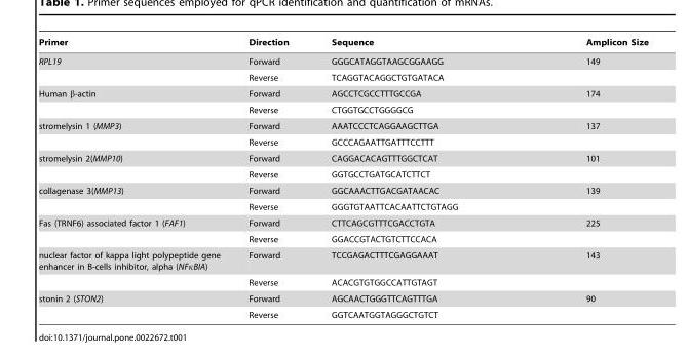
<table><thead><tr><td>Primer</td><td>Direction</td><td>Sequence</td><td>Amplicon Size</td></tr></thead><tbody><tr><td rowspan="2">RPL19</td><td>Forward</td><td>GGGCATAGGTAAGCGGAAGG</td><td>149</td></tr><tr><td>Reverse</td><td>TCAGGTACAGGCTGTGATACA</td><td></td></tr><tr><td rowspan="2">Human β-actin</td><td>Forward</td><td>AGCCTCGCCTTTGCCGA</td><td>174</td></tr><tr><td>Reverse</td><td>CTGGTGCCTGGGGCG</td><td></td></tr><tr><td rowspan="2">stromelysin 1 (MMP3)</td><td>Forward</td><td>AAATCCCTCAGGAAGCTTGA</td><td>137</td></tr><tr><td>Reverse</td><td>GCCCAGAATTGATTTCCTTT</td><td></td></tr><tr><td rowspan="2">stromelysin 2(MMP10)</td><td>Forward</td><td>CAGGACACAGTTTGGCTCAT</td><td>101</td></tr><tr><td>Reverse</td><td>GGTGCCTGATGCATCTTCT</td><td></td></tr><tr><td rowspan="2">collagenase 3(MMP13)</td><td>Forward</td><td>GGCAAACTTGACGATAACAC</td><td>139</td></tr><tr><td>Reverse</td><td>GGGTGTAATTCACAATTCTGTAGG</td><td></td></tr><tr><td rowspan="2">Fas (TRNF6) associated factor 1 (FAF1)</td><td>Forward</td><td>CTTCAGCGTTTCGACCTGTA</td><td>225</td></tr><tr><td>Reverse</td><td>GGACCGTACTGTCTTCCACA</td><td></td></tr><tr><td rowspan="2">nuclear factor of kappa light polypeptide gene enhancer in B-cells inhibitor, alpha (NFκBIA)</td><td>Forward</td><td>TCCGAGACTTTCGAGGAAAT</td><td>143</td></tr><tr><td>Reverse</td><td>ACACGTGTGGCCATTGTAGT</td><td></td></tr><tr><td rowspan="2">stonin 2 (STON2)</td><td>Forward</td><td>AGCAACTGGGTTCAGTTTGA</td><td>90</td></tr><tr><td>Reverse</td><td>GGTCAATGGTAGGGCTGTCT</td><td></td></tr></tbody></table>